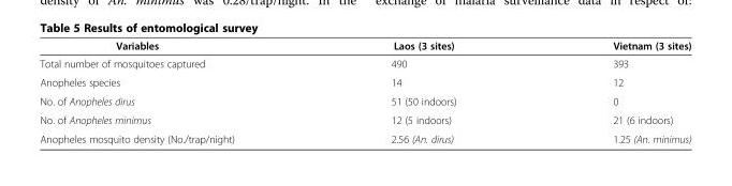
<table><thead><tr><td>Variables</td><td>Laos (3 sites)</td><td>Vietnam (3 sites)</td></tr></thead><tbody><tr><td>Total number of mosquitoes captured</td><td>490</td><td>393</td></tr><tr><td>Anopheles species</td><td>14</td><td>12</td></tr><tr><td>No. of Anopheles dirus</td><td>51 (50 indoors)</td><td>0</td></tr><tr><td>No. of Anopheles minimus</td><td>12 (5 indoors)</td><td>21 (6 indoors)</td></tr><tr><td>Anopheles mosquito density (No./trap/night)</td><td>2.56 (An. dirus)</td><td>1.25 (An. minimus)</td></tr></tbody></table>